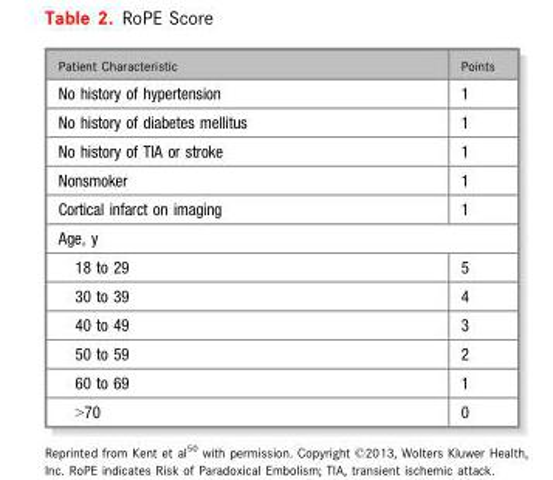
<table><thead><tr><td>Patient Characteristic</td><td>Points</td></tr></thead><tbody><tr><td>No history of hypertension</td><td>1</td></tr><tr><td>No history of diabetes mellitus</td><td>1</td></tr><tr><td>No history of TIA or stroke</td><td>1</td></tr><tr><td>Nonsmoker</td><td>1</td></tr><tr><td>Cortical infarct on imaging</td><td>1</td></tr><tr><td colspan="2">Age, y</td></tr><tr><td>18 to 29</td><td>5</td></tr><tr><td>30 to 39</td><td>4</td></tr><tr><td>40 to 49</td><td>3</td></tr><tr><td>50 to 59</td><td>2</td></tr><tr><td>60 to 69</td><td>1</td></tr><tr><td>&gt;70</td><td>0</td></tr></tbody></table>